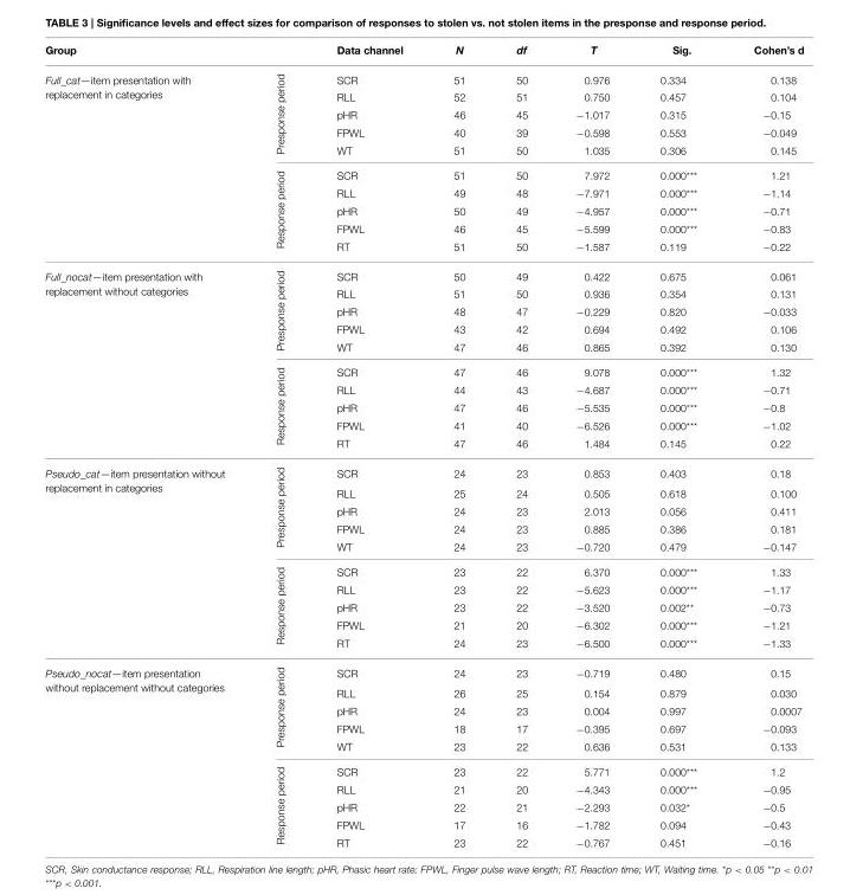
<table><thead><tr><td>Group</td><td></td><td>Data channel</td><td>N</td><td>df</td><td>T</td><td>Sig.</td><td>Cohen’s d</td></tr></thead><tbody><tr><td rowspan="10">Full_cat—item presentation with replacement in categories</td><td rowspan="5">Presponse period</td><td>SCR</td><td>51</td><td>50</td><td>0.976</td><td>0.334</td><td>0.138</td></tr><tr><td>RLL</td><td>52</td><td>51</td><td>0.750</td><td>0.457</td><td>0.104</td></tr><tr><td>pHR</td><td>46</td><td>45</td><td>−1.017</td><td>0.315</td><td>−0.15</td></tr><tr><td>FPWL</td><td>40</td><td>39</td><td>−0.598</td><td>0.553</td><td>−0.049</td></tr><tr><td>WT</td><td>51</td><td>50</td><td>1.035</td><td>0.306</td><td>0.145</td></tr><tr><td rowspan="5">Response period</td><td>SCR</td><td>51</td><td>50</td><td>7.972</td><td>0.000***</td><td>1.21</td></tr><tr><td>RLL</td><td>49</td><td>48</td><td>−7.971</td><td>0.000***</td><td>−1.14</td></tr><tr><td>pHR</td><td>50</td><td>49</td><td>−4.957</td><td>0.000***</td><td>−0.71</td></tr><tr><td>FPWL</td><td>46</td><td>45</td><td>−5.599</td><td>0.000***</td><td>−0.83</td></tr><tr><td>RT</td><td>51</td><td>50</td><td>−1.587</td><td>0.119</td><td>−0.22</td></tr><tr><td rowspan="10">Full_nocat—item presentation with replacement without categories</td><td rowspan="5">Presponse period</td><td>SCR</td><td>50</td><td>49</td><td>0.422</td><td>0.675</td><td>0.061</td></tr><tr><td>RLL</td><td>51</td><td>50</td><td>0.936</td><td>0.354</td><td>0.131</td></tr><tr><td>pHR</td><td>48</td><td>47</td><td>−0.229</td><td>0.820</td><td>−0.033</td></tr><tr><td>FPWL</td><td>43</td><td>42</td><td>0.694</td><td>0.492</td><td>0.106</td></tr><tr><td>WT</td><td>47</td><td>46</td><td>0.865</td><td>0.392</td><td>0.130</td></tr><tr><td rowspan="5">Response period</td><td>SCR</td><td>47</td><td>46</td><td>9.078</td><td>0.000***</td><td>1.32</td></tr><tr><td>RLL</td><td>44</td><td>43</td><td>−4.687</td><td>0.000***</td><td>−0.71</td></tr><tr><td>pHR</td><td>47</td><td>46</td><td>−5.535</td><td>0.000***</td><td>−0.8</td></tr><tr><td>FPWL</td><td>41</td><td>40</td><td>−6.526</td><td>0.000***</td><td>−1.02</td></tr><tr><td>RT</td><td>47</td><td>46</td><td>1.484</td><td>0.145</td><td>0.22</td></tr><tr><td rowspan="10">Pseudo_cat—item presentation without replacement in categories</td><td rowspan="5">Presponse period</td><td>SCR</td><td>24</td><td>23</td><td>0.853</td><td>0.403</td><td>0.18</td></tr><tr><td>RLL</td><td>25</td><td>24</td><td>0.505</td><td>0.618</td><td>0.100</td></tr><tr><td>pHR</td><td>24</td><td>23</td><td>2.013</td><td>0.056</td><td>0.411</td></tr><tr><td>FPWL</td><td>24</td><td>23</td><td>0.885</td><td>0.386</td><td>0.181</td></tr><tr><td>WT</td><td>24</td><td>23</td><td>−0.720</td><td>0.479</td><td>−0.147</td></tr><tr><td rowspan="5">Response period</td><td>SCR</td><td>23</td><td>22</td><td>6.370</td><td>0.000***</td><td>1.33</td></tr><tr><td>RLL</td><td>23</td><td>22</td><td>−5.623</td><td>0.000***</td><td>−1.17</td></tr><tr><td>pHR</td><td>23</td><td>22</td><td>−3.520</td><td>0.002**</td><td>−0.73</td></tr><tr><td>FPWL</td><td>21</td><td>20</td><td>−6.302</td><td>0.000***</td><td>−1.21</td></tr><tr><td>RT</td><td>24</td><td>23</td><td>−6.500</td><td>0.000***</td><td>−1.33</td></tr><tr><td rowspan="10">Pseudo_nocat—item presentation without replacement without categories</td><td rowspan="5">Presponse period</td><td>SCR</td><td>24</td><td>23</td><td>−0.719</td><td>0.480</td><td>0.15</td></tr><tr><td>RLL</td><td>26</td><td>25</td><td>0.154</td><td>0.879</td><td>0.030</td></tr><tr><td>pHR</td><td>24</td><td>23</td><td>0.004</td><td>0.997</td><td>0.0007</td></tr><tr><td>FPWL</td><td>18</td><td>17</td><td>−0.395</td><td>0.697</td><td>−0.093</td></tr><tr><td>WT</td><td>23</td><td>22</td><td>0.636</td><td>0.531</td><td>0.133</td></tr><tr><td rowspan="5">Response period</td><td>SCR</td><td>23</td><td>22</td><td>5.771</td><td>0.000***</td><td>1.2</td></tr><tr><td>RLL</td><td>21</td><td>20</td><td>−4.343</td><td>0.000***</td><td>−0.95</td></tr><tr><td>pHR</td><td>22</td><td>21</td><td>−2.293</td><td>0.032*</td><td>−0.5</td></tr><tr><td>FPWL</td><td>17</td><td>16</td><td>−1.782</td><td>0.094</td><td>−0.43</td></tr><tr><td>RT</td><td>23</td><td>22</td><td>−0.767</td><td>0.451</td><td>−0.16</td></tr></tbody></table>